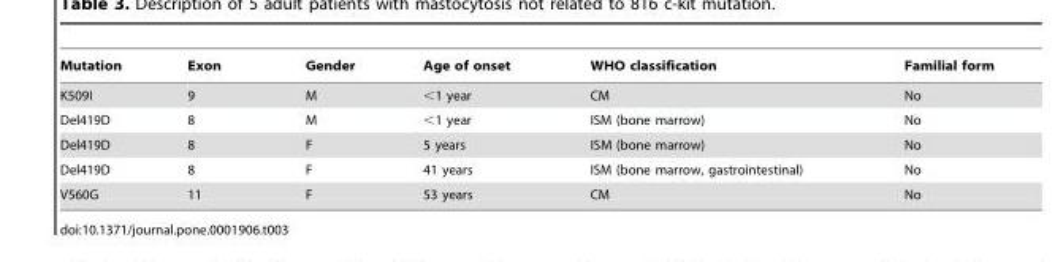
<table><thead><tr><td>Mutation</td><td>Exon</td><td>Gender</td><td>Age of onset</td><td>WHO classification</td><td>Familial form</td></tr></thead><tbody><tr><td>K509I</td><td>9</td><td>M</td><td>&lt;1 year</td><td>CM</td><td>No</td></tr><tr><td>Del419D</td><td>8</td><td>M</td><td>&lt;1 year</td><td>ISM (bone marrow)</td><td>No</td></tr><tr><td>Del419D</td><td>8</td><td>F</td><td>5 years</td><td>ISM (bone marrow)</td><td>No</td></tr><tr><td>Del419D</td><td>8</td><td>F</td><td>41 years</td><td>ISM (bone marrow, gastrointestinal)</td><td>No</td></tr><tr><td>V560G</td><td>11</td><td>F</td><td>53 years</td><td>CM</td><td>No</td></tr></tbody></table>